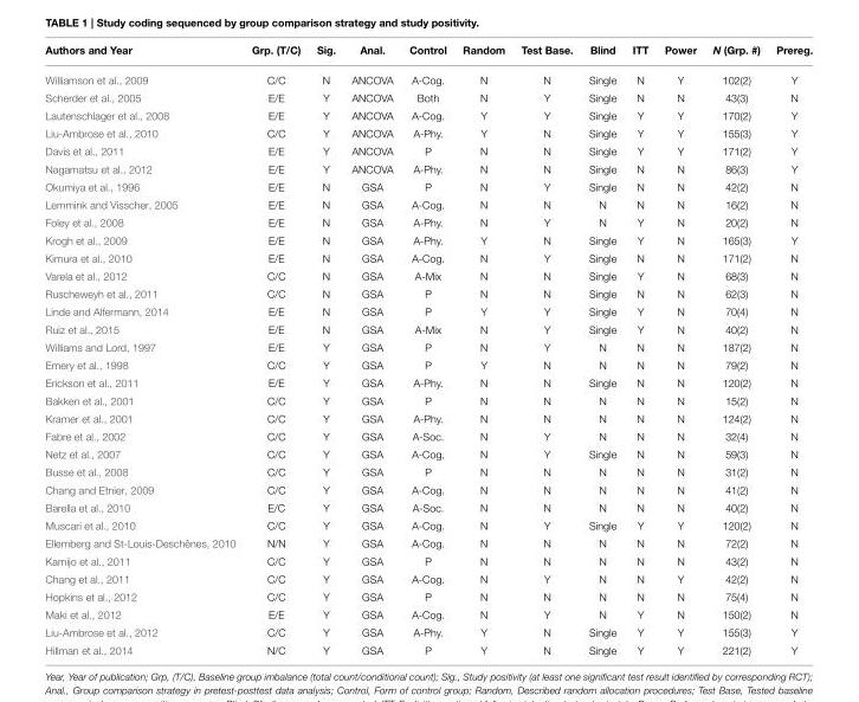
<table><thead><tr><td>Authors and Year</td><td>Grp. (T/C)</td><td>Sig.</td><td>Anal.</td><td>Control</td><td>Random</td><td>Test Base.</td><td>Blind</td><td>ITT</td><td>Power</td><td>N (Grp. #)</td><td>Prereg.</td></tr></thead><tbody><tr><td>Williamson et al., 2009</td><td>C/C</td><td>N</td><td>ANCOVA</td><td>A-Cog.</td><td>N</td><td>N</td><td>Single</td><td>N</td><td>Y</td><td>102(2)</td><td>Y</td></tr><tr><td>Scherder et al., 2005</td><td>E/E</td><td>Y</td><td>ANCOVA</td><td>Both</td><td>N</td><td>Y</td><td>Single</td><td>N</td><td>N</td><td>43(3)</td><td>N</td></tr><tr><td>Lautenschlager et al., 2008</td><td>E/E</td><td>Y</td><td>ANCOVA</td><td>A-Cog.</td><td>Y</td><td>Y</td><td>Single</td><td>Y</td><td>Y</td><td>170(2)</td><td>Y</td></tr><tr><td>Liu-Ambrose et al., 2010</td><td>C/C</td><td>Y</td><td>ANCOVA</td><td>A-Phy.</td><td>Y</td><td>N</td><td>Single</td><td>Y</td><td>Y</td><td>155(3)</td><td>Y</td></tr><tr><td>Davis et al., 2011</td><td>E/E</td><td>Y</td><td>ANCOVA</td><td>P</td><td>N</td><td>N</td><td>Single</td><td>Y</td><td>Y</td><td>171(2)</td><td>Y</td></tr><tr><td>Nagamatsu et al., 2012</td><td>E/E</td><td>Y</td><td>ANCOVA</td><td>A-Phy.</td><td>N</td><td>N</td><td>Single</td><td>N</td><td>N</td><td>86(3)</td><td>Y</td></tr><tr><td>Okumiya et al., 1996</td><td>E/E</td><td>N</td><td>GSA</td><td>P</td><td>N</td><td>Y</td><td>Single</td><td>N</td><td>N</td><td>42(2)</td><td>N</td></tr><tr><td>Lemmink and Visscher, 2005</td><td>E/E</td><td>N</td><td>GSA</td><td>A-Cog.</td><td>N</td><td>N</td><td>N</td><td>N</td><td>N</td><td>16(2)</td><td>N</td></tr><tr><td>Foley et al., 2008</td><td>E/E</td><td>N</td><td>GSA</td><td>A-Phy.</td><td>N</td><td>Y</td><td>N</td><td>Y</td><td>N</td><td>20(2)</td><td>N</td></tr><tr><td>Krogh et al., 2009</td><td>E/E</td><td>N</td><td>GSA</td><td>A-Phy.</td><td>Y</td><td>N</td><td>Single</td><td>Y</td><td>N</td><td>165(3)</td><td>Y</td></tr><tr><td>Kimura et al., 2010</td><td>E/E</td><td>N</td><td>GSA</td><td>A-Cog.</td><td>N</td><td>Y</td><td>Single</td><td>N</td><td>N</td><td>171(2)</td><td>N</td></tr><tr><td>Varela et al., 2012</td><td>C/C</td><td>N</td><td>GSA</td><td>A-Mix</td><td>N</td><td>N</td><td>Single</td><td>Y</td><td>N</td><td>68(3)</td><td>N</td></tr><tr><td>Ruscheweyh et al., 2011</td><td>C/C</td><td>N</td><td>GSA</td><td>P</td><td>N</td><td>N</td><td>Single</td><td>N</td><td>N</td><td>62(3)</td><td>N</td></tr><tr><td>Linde and Alfermann, 2014</td><td>E/E</td><td>N</td><td>GSA</td><td>P</td><td>Y</td><td>Y</td><td>Single</td><td>Y</td><td>N</td><td>70(4)</td><td>N</td></tr><tr><td>Ruiz et al., 2015</td><td>E/E</td><td>N</td><td>GSA</td><td>A-Mix</td><td>N</td><td>Y</td><td>Single</td><td>Y</td><td>N</td><td>40(2)</td><td>N</td></tr><tr><td>Williams and Lord, 1997</td><td>E/E</td><td>Y</td><td>GSA</td><td>P</td><td>N</td><td>Y</td><td>N</td><td>N</td><td>N</td><td>187(2)</td><td>N</td></tr><tr><td>Emery et al., 1998</td><td>C/C</td><td>Y</td><td>GSA</td><td>P</td><td>Y</td><td>N</td><td>N</td><td>N</td><td>N</td><td>79(2)</td><td>N</td></tr><tr><td>Erickson et al., 2011</td><td>E/E</td><td>Y</td><td>GSA</td><td>A-Phy.</td><td>N</td><td>N</td><td>Single</td><td>N</td><td>N</td><td>120(2)</td><td>N</td></tr><tr><td>Bakken et al., 2001</td><td>C/C</td><td>Y</td><td>GSA</td><td>P</td><td>N</td><td>N</td><td>N</td><td>N</td><td>N</td><td>15(2)</td><td>N</td></tr><tr><td>Kramer et al., 2001</td><td>C/C</td><td>Y</td><td>GSA</td><td>A-Phy.</td><td>N</td><td>N</td><td>N</td><td>N</td><td>N</td><td>124(2)</td><td>N</td></tr><tr><td>Fabre et al., 2002</td><td>C/C</td><td>Y</td><td>GSA</td><td>A-Soc.</td><td>N</td><td>Y</td><td>N</td><td>N</td><td>N</td><td>32(4)</td><td>N</td></tr><tr><td>Netz et al., 2007</td><td>C/C</td><td>Y</td><td>GSA</td><td>A-Cog.</td><td>N</td><td>Y</td><td>Single</td><td>N</td><td>N</td><td>59(3)</td><td>N</td></tr><tr><td>Busse et al., 2008</td><td>C/C</td><td>Y</td><td>GSA</td><td>P</td><td>N</td><td>N</td><td>N</td><td>N</td><td>N</td><td>31(2)</td><td>N</td></tr><tr><td>Chang and Etnier, 2009</td><td>C/C</td><td>Y</td><td>GSA</td><td>A-Cog.</td><td>N</td><td>N</td><td>N</td><td>N</td><td>N</td><td>41(2)</td><td>N</td></tr><tr><td>Barella et al., 2010</td><td>E/C</td><td>Y</td><td>GSA</td><td>A-Soc.</td><td>N</td><td>N</td><td>N</td><td>N</td><td>N</td><td>40(2)</td><td>N</td></tr><tr><td>Muscari et al., 2010</td><td>C/C</td><td>Y</td><td>GSA</td><td>A-Cog.</td><td>N</td><td>Y</td><td>Single</td><td>Y</td><td>Y</td><td>120(2)</td><td>N</td></tr><tr><td>Ellemberg and St-Louis-Deschênes, 2010</td><td>N/N</td><td>Y</td><td>GSA</td><td>A-Cog.</td><td>N</td><td>N</td><td>N</td><td>N</td><td>N</td><td>72(2)</td><td>N</td></tr><tr><td>Kamijo et al., 2011</td><td>C/C</td><td>Y</td><td>GSA</td><td>P</td><td>N</td><td>N</td><td>N</td><td>N</td><td>N</td><td>43(2)</td><td>N</td></tr><tr><td>Chang et al., 2011</td><td>C/C</td><td>Y</td><td>GSA</td><td>A-Cog.</td><td>N</td><td>Y</td><td>N</td><td>N</td><td>Y</td><td>42(2)</td><td>N</td></tr><tr><td>Hopkins et al., 2012</td><td>C/C</td><td>Y</td><td>GSA</td><td>P</td><td>N</td><td>N</td><td>N</td><td>N</td><td>N</td><td>75(4)</td><td>N</td></tr><tr><td>Maki et al., 2012</td><td>E/E</td><td>Y</td><td>GSA</td><td>A-Cog.</td><td>N</td><td>Y</td><td>N</td><td>Y</td><td>N</td><td>150(2)</td><td>N</td></tr><tr><td>Liu-Ambrose et al., 2012</td><td>C/C</td><td>Y</td><td>GSA</td><td>A-Phy.</td><td>Y</td><td>N</td><td>Single</td><td>Y</td><td>Y</td><td>155(3)</td><td>Y</td></tr><tr><td>Hillman et al., 2014</td><td>N/C</td><td>Y</td><td>GSA</td><td>P</td><td>Y</td><td>N</td><td>Single</td><td>Y</td><td>Y</td><td>221(2)</td><td>Y</td></tr></tbody></table>